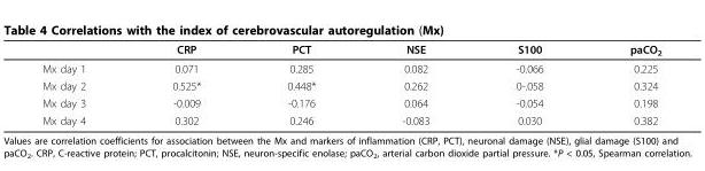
<table><thead><tr><td></td><td>CRP</td><td>PCT</td><td>NSE</td><td>S100</td><td>paCO<sub>2</sub></td></tr></thead><tbody><tr><td>Mx day 1</td><td>0.071</td><td>0.285</td><td>0.082</td><td>-0.066</td><td>0.225</td></tr><tr><td>Mx day 2</td><td>0.525*</td><td>0.448*</td><td>0.262</td><td>0-.058</td><td>0.324</td></tr><tr><td>Mx day 3</td><td>-0.009</td><td>-0.176</td><td>0.064</td><td>-0.054</td><td>0.198</td></tr><tr><td>Mx day 4</td><td>0.302</td><td>0.246</td><td>-0.083</td><td>0.030</td><td>0.382</td></tr></tbody></table>